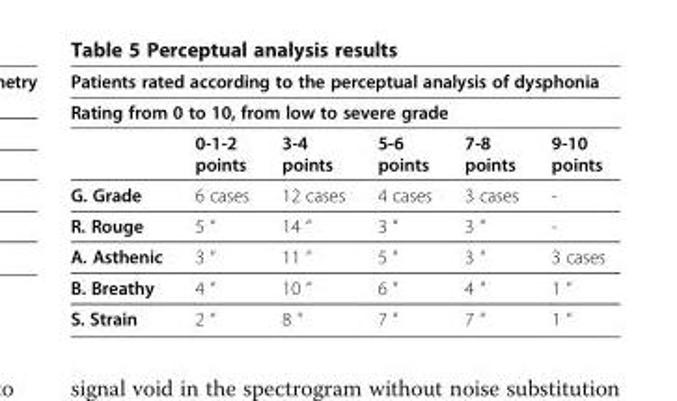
<table><thead><tr><td rowspan="2" colspan="6">Patients rated according to the perceptual analysis of dysphonia Rating from 0 to 10, from low to severe grade</td></tr><tr></tr><tr><td></td><td>0-1-2 points</td><td>3-4 points</td><td>5-6 points</td><td>7-8 points</td><td>9-10 points</td></tr></thead><tbody><tr><td>G. Grade</td><td>6 cases</td><td>12 cases</td><td>4 cases</td><td>3 cases</td><td>-</td></tr><tr><td>R. Rouge</td><td>5 “</td><td>14 “</td><td>3 “</td><td>3 “</td><td>-</td></tr><tr><td>A. Asthenic</td><td>3 “</td><td>11 “</td><td>5 “</td><td>3 “</td><td>3 cases</td></tr><tr><td>B. Breathy</td><td>4 “</td><td>10 “</td><td>6 “</td><td>4 “</td><td>1 “</td></tr><tr><td>S. Strain</td><td>2 “</td><td>8 “</td><td>7 “</td><td>7 “</td><td>1 “</td></tr></tbody></table>